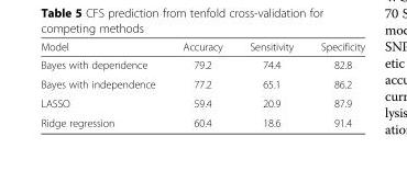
<table><thead><tr><td>Model</td><td>Accuracy</td><td>Sensitivity</td><td>Specificity</td></tr></thead><tbody><tr><td>Bayes with dependence</td><td>79.2</td><td>74.4</td><td>82.8</td></tr><tr><td>Bayes with independence</td><td>77.2</td><td>65.1</td><td>86.2</td></tr><tr><td>LASSO</td><td>59.4</td><td>20.9</td><td>87.9</td></tr><tr><td>Ridge regression</td><td>60.4</td><td>18.6</td><td>91.4</td></tr></tbody></table>